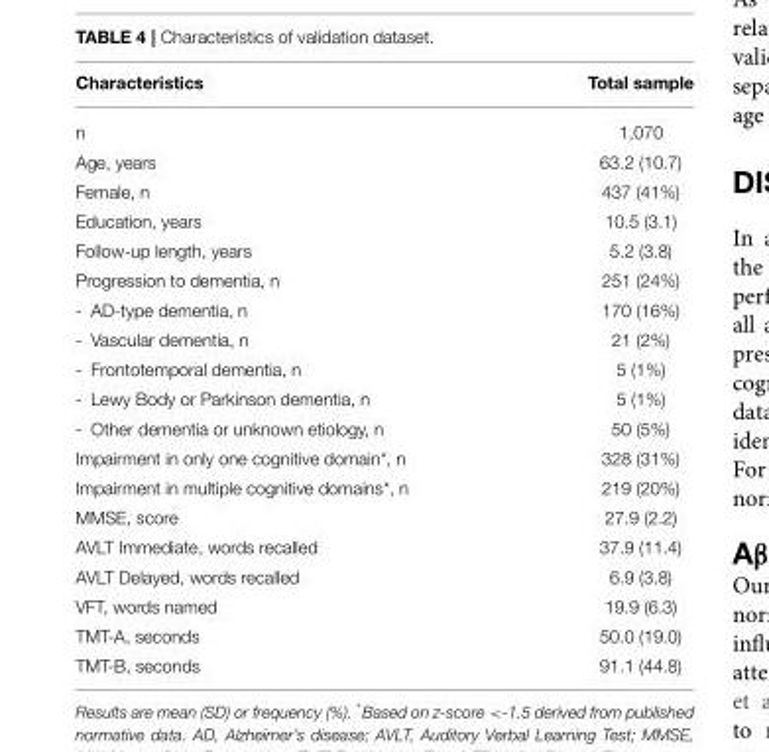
<table><thead><tr><td>Characteristics</td><td>Total sample</td></tr></thead><tbody><tr><td>n</td><td>1,070</td></tr><tr><td>Age, years</td><td>63.2 (10.7)</td></tr><tr><td>Female, n</td><td>437 (41%)</td></tr><tr><td>Education, years</td><td>10.5 (3.1)</td></tr><tr><td>Follow-up length, years</td><td>5.2 (3.8)</td></tr><tr><td>Progression to dementia, n</td><td>251 (24%)</td></tr><tr><td>- AD-type dementia, n</td><td>170 (16%)</td></tr><tr><td>- Vascular dementia, n</td><td>21 (2%)</td></tr><tr><td>- Frontotemporal dementia, n</td><td>5 (1%)</td></tr><tr><td>- Lewy Body or Parkinson dementia, n</td><td>5 (1%)</td></tr><tr><td>- Other dementia or unknown etiology, n</td><td>50 (5%)</td></tr><tr><td>Impairment in only one cognitive domain*, n</td><td>328 (31%)</td></tr><tr><td>Impairment in multiple cognitive domains*, n</td><td>219 (20%)</td></tr><tr><td>MMSE, score</td><td>27.9 (2.2)</td></tr><tr><td>AVLT Immediate, words recalled</td><td>37.9 (11.4)</td></tr><tr><td>AVLT Delayed, words recalled</td><td>6.9 (3.8)</td></tr><tr><td>VFT, words named</td><td>19.9 (6.3)</td></tr><tr><td>TMT-A, seconds</td><td>50.0 (19.0)</td></tr><tr><td>TMT-B, seconds</td><td>91.1 (44.8)</td></tr></tbody></table>